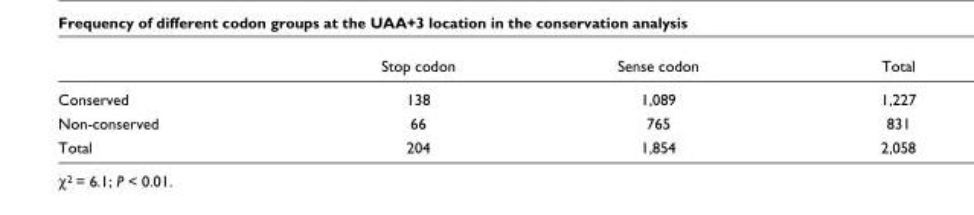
<table><thead><tr><td></td><td>Stop codon</td><td>Sense codon</td><td>Total</td></tr></thead><tbody><tr><td>Conserved</td><td>138</td><td>1,089</td><td>1,227</td></tr><tr><td>Non-conserved</td><td>66</td><td>765</td><td>831</td></tr><tr><td>Total</td><td>204</td><td>1,854</td><td>2,058</td></tr></tbody></table>